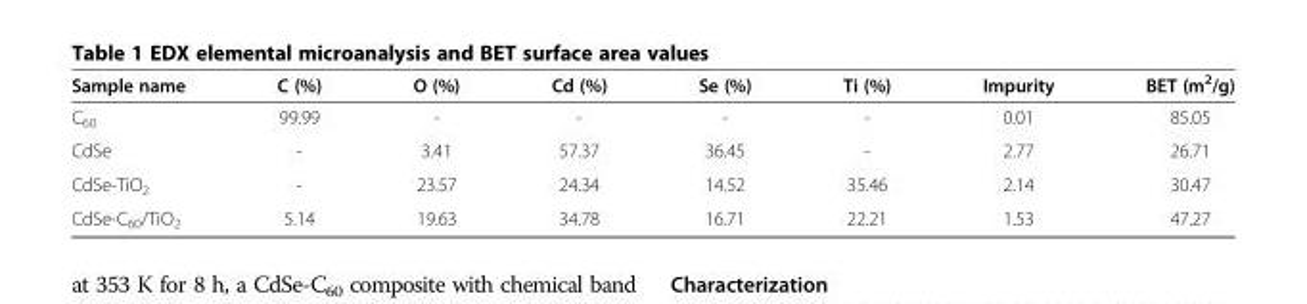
<table><thead><tr><td>Sample name</td><td>C (%)</td><td>O (%)</td><td>Cd (%)</td><td>Se (%)</td><td>Ti (%)</td><td>Impurity</td><td>BET (m<sup>2</sup>/g)</td></tr></thead><tbody><tr><td>C<sub>60</sub></td><td>99.99</td><td>-</td><td>-</td><td>-</td><td>-</td><td>0.01</td><td>85.05</td></tr><tr><td>CdSe</td><td>-</td><td>3.41</td><td>57.37</td><td>36.45</td><td>-</td><td>2.77</td><td>26.71</td></tr><tr><td>CdSe-TiO<sub>2</sub></td><td>-</td><td>23.57</td><td>24.34</td><td>14.52</td><td>35.46</td><td>2.14</td><td>30.47</td></tr><tr><td>CdSe-C<sub>60</sub>/TiO<sub>2</sub></td><td>5.14</td><td>19.63</td><td>34.78</td><td>16.71</td><td>22.21</td><td>1.53</td><td>47.27</td></tr></tbody></table>